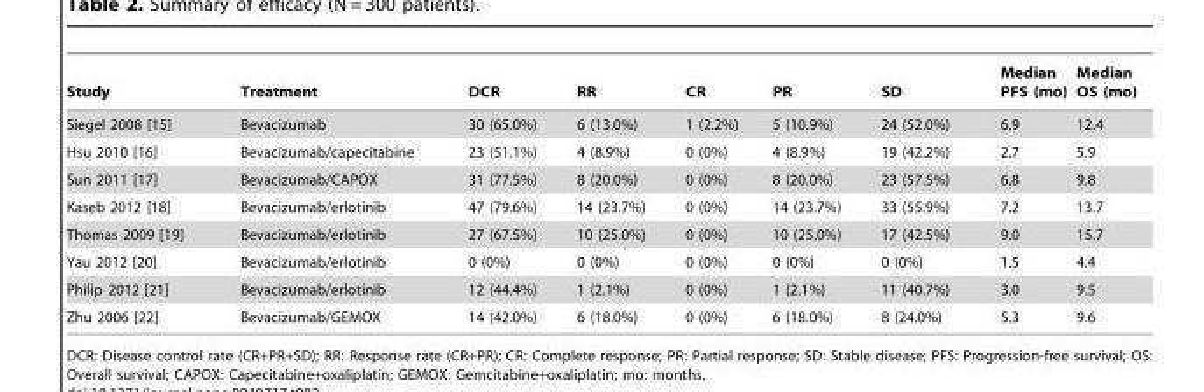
<table><thead><tr><td>Study</td><td>Treatment</td><td>DCR</td><td>RR</td><td>CR</td><td>PR</td><td>SD</td><td>Median PFS (mo)</td><td>Median OS (mo)</td></tr></thead><tbody><tr><td>Siegel 2008 [15]</td><td>Bevacizumab</td><td>30 (65.0%)</td><td>6 (13.0%)</td><td>1 (2.2%)</td><td>5 (10.9%)</td><td>24 (52.0%)</td><td>6.9</td><td>12.4</td></tr><tr><td>Hsu 2010 [16]</td><td>Bevacizumab/capecitabine</td><td>23 (51.1%)</td><td>4 (8.9%)</td><td>0 (0%)</td><td>4 (8.9%)</td><td>19 (42.2%)</td><td>2.7</td><td>5.9</td></tr><tr><td>Sun 2011 [17]</td><td>Bevacizumab/CAPOX</td><td>31 (77.5%)</td><td>8 (20.0%)</td><td>0 (0%)</td><td>8 (20.0%)</td><td>23 (57.5%)</td><td>6.8</td><td>9.8</td></tr><tr><td>Kaseb 2012 [18]</td><td>Bevacizumab/erlotinib</td><td>47 (79.6%)</td><td>14 (23.7%)</td><td>0 (0%)</td><td>14 (23.7%)</td><td>33 (55.9%)</td><td>7.2</td><td>13.7</td></tr><tr><td>Thomas 2009 [19]</td><td>Bevacizumab/erlotinib</td><td>27 (67.5%)</td><td>10 (25.0%)</td><td>0 (0%)</td><td>10 (25.0%)</td><td>17 (42.5%)</td><td>9.0</td><td>15.7</td></tr><tr><td>Yau 2012 [20]</td><td>Bevacizumab/erlotinib</td><td>0 (0%)</td><td>0 (0%)</td><td>0 (0%)</td><td>0 (0%)</td><td>0 (0%)</td><td>1.5</td><td>4.4</td></tr><tr><td>Philip 2012 [21]</td><td>Bevacizumab/erlotinib</td><td>12 (44.4%)</td><td>1 (2.1%)</td><td>0 (0%)</td><td>1 (2.1%)</td><td>11 (40.7%)</td><td>3.0</td><td>9.5</td></tr><tr><td>Zhu 2006 [22]</td><td>Bevacizumab/GEMOX</td><td>14 (42.0%)</td><td>6 (18.0%)</td><td>0 (0%)</td><td>6 (18.0%)</td><td>8 (24.0%)</td><td>5.3</td><td>9.6</td></tr></tbody></table>